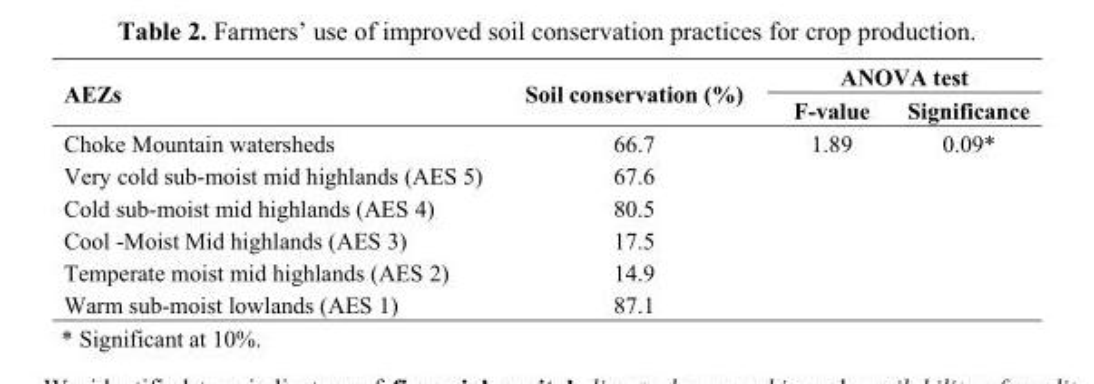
<table><thead><tr><td rowspan="2">AEZs</td><td rowspan="2">Soil conservation (%)</td><td colspan="2">ANOVA test</td></tr><tr><td>F-value</td><td>Significance</td></tr></thead><tbody><tr><td>Choke Mountain watersheds</td><td>66.7</td><td rowspan="6">1.89</td><td rowspan="6">0.09*</td></tr><tr><td>Very cold sub-moist mid highlands (AES 5)</td><td>67.6</td></tr><tr><td>Cold sub-moist mid highlands (AES 4)</td><td>80.5</td></tr><tr><td>Cool -Moist Mid highlands (AES 3)</td><td>17.5</td></tr><tr><td>Temperate moist mid highlands (AES 2)</td><td>14.9</td></tr><tr><td>Warm sub-moist lowlands (AES 1)</td><td>87.1</td></tr></tbody></table>